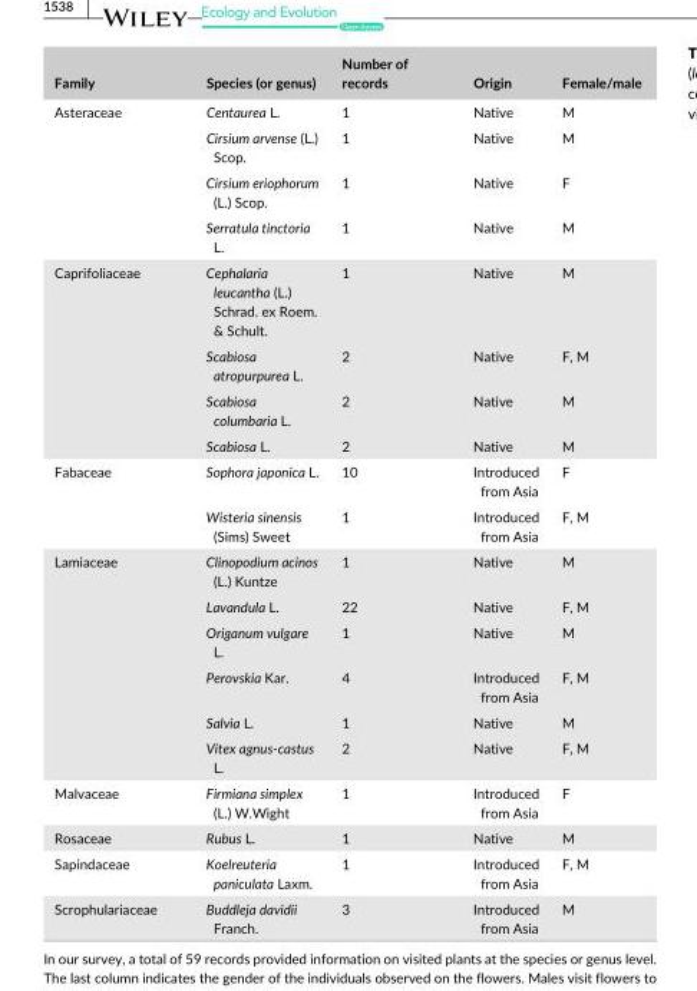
<table><thead><tr><td>Family</td><td>Species (or genus)</td><td>Number of records</td><td>Origin</td><td>Female/male</td></tr></thead><tbody><tr><td rowspan="4">Asteraceae</td><td>Centaurea L.</td><td>1</td><td>Native</td><td>M</td></tr><tr><td>Cirsium arvense (L.) Scop.</td><td>1</td><td>Native</td><td>M</td></tr><tr><td>Cirsium eriophorum (L.) Scop.</td><td>1</td><td>Native</td><td>F</td></tr><tr><td>Serratula tinctoria L.</td><td>1</td><td>Native</td><td>M</td></tr><tr><td rowspan="4">Caprifoliaceae</td><td>Cephalaria leucantha (L.) Schrad. ex Roem. &amp; Schult.</td><td>1</td><td>Native</td><td>M</td></tr><tr><td>Scabiosa atropurpurea L.</td><td>2</td><td>Native</td><td>F, M</td></tr><tr><td>Scabiosa columbaria L.</td><td>2</td><td>Native</td><td>M</td></tr><tr><td>Scabiosa L.</td><td>2</td><td>Native</td><td>M</td></tr><tr><td rowspan="2">Fabaceae</td><td>Sophora japonica L.</td><td>10</td><td>Introduced from Asia</td><td>F</td></tr><tr><td>Wisteria sinensis (Sims) Sweet</td><td>1</td><td>Introduced from Asia</td><td>F, M</td></tr><tr><td rowspan="6">Lamiaceae</td><td>Clinopodium acinos (L.) Kuntze</td><td>1</td><td>Native</td><td>M</td></tr><tr><td>Lavandula L.</td><td>22</td><td>Native</td><td>F, M</td></tr><tr><td>Origanum vulgare L.</td><td>1</td><td>Native</td><td>M</td></tr><tr><td>Perovskia Kar.</td><td>4</td><td>Introduced from Asia</td><td>F, M</td></tr><tr><td>Salvia L.</td><td>1</td><td>Native</td><td>M</td></tr><tr><td>Vitex agnus-castus L.</td><td>2</td><td>Native</td><td>F, M</td></tr><tr><td>Malvaceae</td><td>Firmiana simplex (L.) W.Wight</td><td>1</td><td>Introduced from Asia</td><td>F</td></tr><tr><td>Rosaceae</td><td>Rubus L.</td><td>1</td><td>Native</td><td>M</td></tr><tr><td>Sapindaceae</td><td>Koelreuteria paniculata Laxm.</td><td>1</td><td>Introduced from Asia</td><td>F, M</td></tr><tr><td>Scrophulariaceae</td><td>Buddleja davidii Franch.</td><td>3</td><td>Introduced from Asia</td><td>M</td></tr></tbody></table>